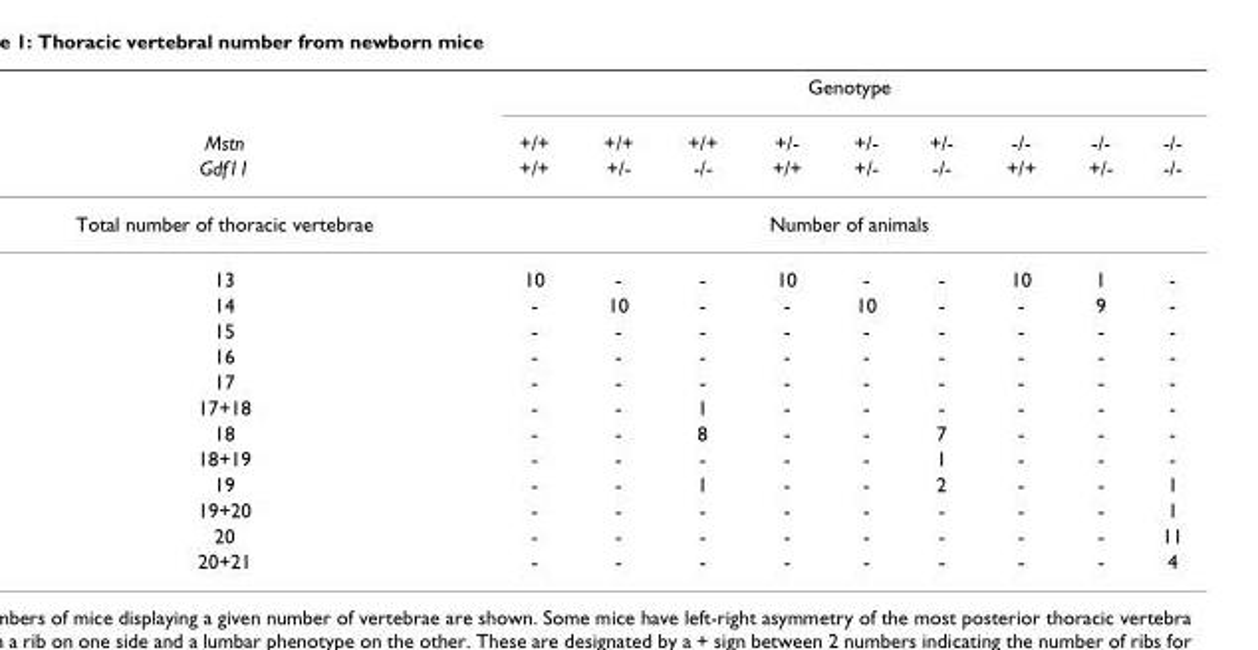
<table><thead><tr><td rowspan="3">Mstn Gdf11</td><td colspan="9">Genotype</td></tr><tr><td rowspan="2">+/+ +/+</td><td rowspan="2">+/+ +/-</td><td rowspan="2">+/+ -/-</td><td rowspan="2">+/- +/+</td><td rowspan="2">+/- +/-</td><td rowspan="2">+/- -/-</td><td rowspan="2">-/- +/+</td><td rowspan="2">-/- +/-</td><td rowspan="2">-/- -/-</td></tr><tr></tr></thead><tbody><tr><td>Total number of thoracic vertebrae</td><td colspan="9">Number of animals</td></tr><tr><td>13</td><td>10</td><td>-</td><td>-</td><td>10</td><td>-</td><td>-</td><td>10</td><td>1</td><td>-</td></tr><tr><td>14</td><td>-</td><td>10</td><td>-</td><td>-</td><td>10</td><td>-</td><td>-</td><td>9</td><td>-</td></tr><tr><td>15</td><td>-</td><td>-</td><td>-</td><td>-</td><td>-</td><td>-</td><td>-</td><td>-</td><td>-</td></tr><tr><td>16</td><td>-</td><td>-</td><td>-</td><td>-</td><td>-</td><td>-</td><td>-</td><td>-</td><td>-</td></tr><tr><td>17</td><td>-</td><td>-</td><td>-</td><td>-</td><td>-</td><td>-</td><td>-</td><td>-</td><td>-</td></tr><tr><td>17+18</td><td>-</td><td>-</td><td>1</td><td>-</td><td>-</td><td>-</td><td>-</td><td>-</td><td>-</td></tr><tr><td>18</td><td>-</td><td>-</td><td>8</td><td>-</td><td>-</td><td>7</td><td>-</td><td>-</td><td>-</td></tr><tr><td>18+19</td><td>-</td><td>-</td><td>-</td><td>-</td><td>-</td><td>1</td><td>-</td><td>-</td><td>-</td></tr><tr><td>19</td><td>-</td><td>-</td><td>1</td><td>-</td><td>-</td><td>2</td><td>-</td><td>-</td><td>1</td></tr><tr><td>19+20</td><td>-</td><td>-</td><td>-</td><td>-</td><td>-</td><td>-</td><td>-</td><td>-</td><td>1</td></tr><tr><td>20</td><td>-</td><td>-</td><td>-</td><td>-</td><td>-</td><td>-</td><td>-</td><td>-</td><td>11</td></tr><tr><td>20+21</td><td>-</td><td>-</td><td>-</td><td>-</td><td>-</td><td>-</td><td>-</td><td>-</td><td>4</td></tr></tbody></table>